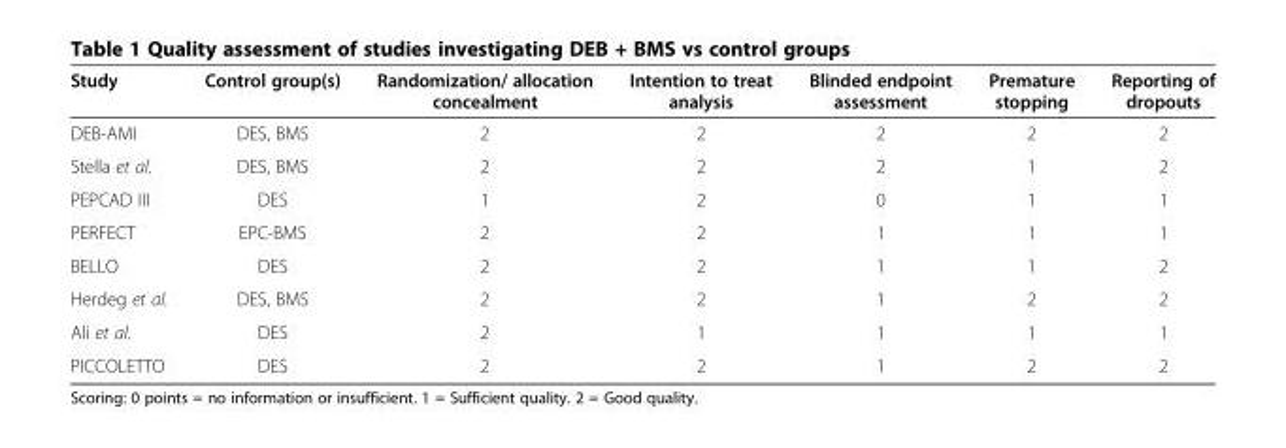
<table><thead><tr><td>Study</td><td>Control group(s)</td><td>Randomization/ allocation concealment</td><td>Intention to treat analysis</td><td>Blinded endpoint assessment</td><td>Premature stopping</td><td>Reporting of dropouts</td></tr></thead><tbody><tr><td>DEB-AMI</td><td>DES, BMS</td><td>2</td><td>2</td><td>2</td><td>2</td><td>2</td></tr><tr><td>Stella et al.</td><td>DES, BMS</td><td>2</td><td>2</td><td>2</td><td>1</td><td>2</td></tr><tr><td>PEPCAD III</td><td>DES</td><td>1</td><td>2</td><td>0</td><td>1</td><td>1</td></tr><tr><td>PERFECT</td><td>EPC-BMS</td><td>2</td><td>2</td><td>1</td><td>1</td><td>1</td></tr><tr><td>BELLO</td><td>DES</td><td>2</td><td>2</td><td>1</td><td>1</td><td>2</td></tr><tr><td>Herdeg et al.</td><td>DES, BMS</td><td>2</td><td>2</td><td>1</td><td>2</td><td>2</td></tr><tr><td>Ali et al.</td><td>DES</td><td>2</td><td>1</td><td>1</td><td>1</td><td>1</td></tr><tr><td>PICCOLETTO</td><td>DES</td><td>2</td><td>2</td><td>1</td><td>2</td><td>2</td></tr></tbody></table>